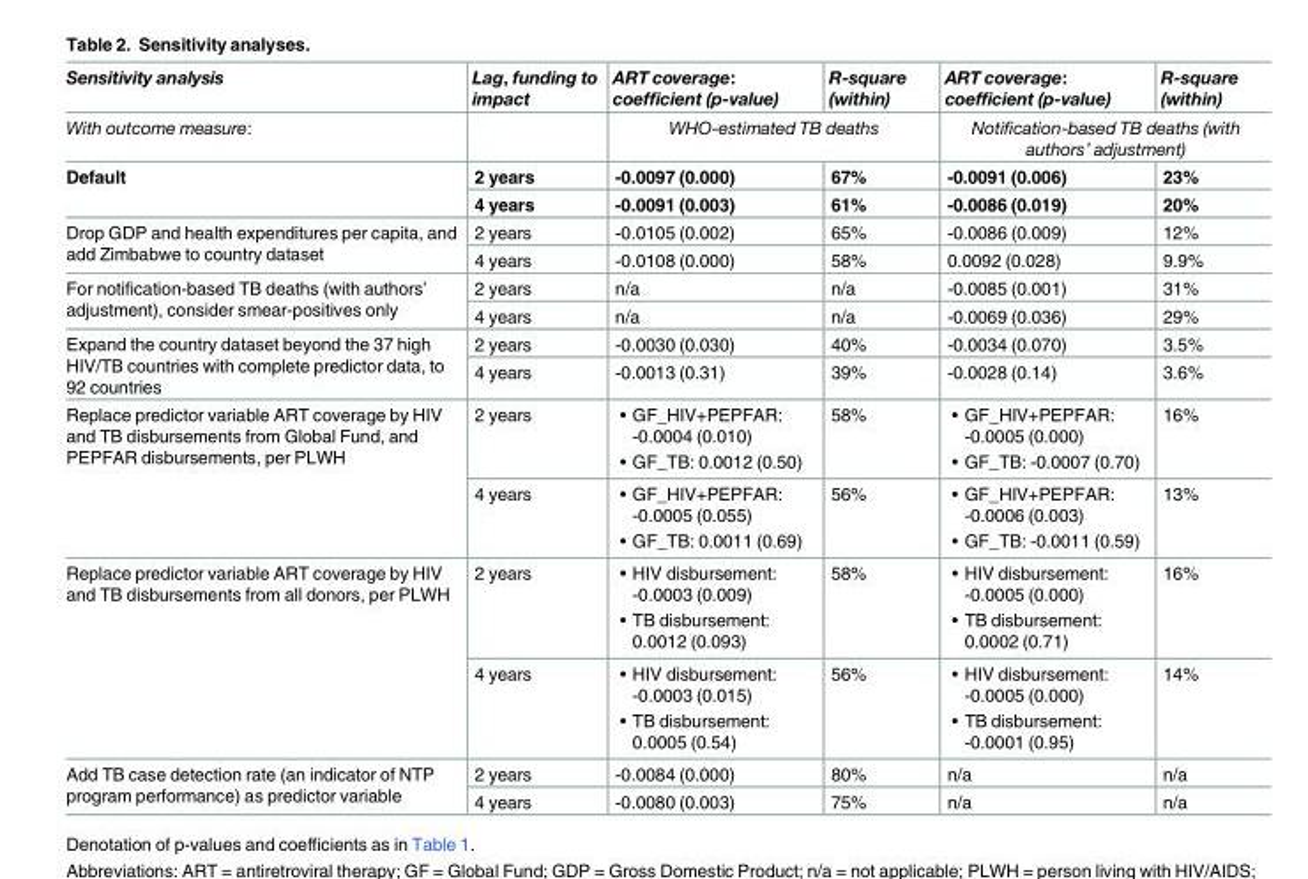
<table><thead><tr><td>Sensitivity analysis</td><td>Lag, funding to impact</td><td>ART coverage: coefficient (p-value)</td><td>R-square (within)</td><td>ART coverage: coefficient (p-value)</td><td>R-square (within)</td></tr></thead><tbody><tr><td>With outcome measure:</td><td></td><td colspan="2">WHO-estimated TB deaths</td><td colspan="2">Notification-based TB deaths (with authors’ adjustment)</td></tr><tr><td rowspan="2">Default</td><td>2 years</td><td>-0.0097 (0.000)</td><td>67%</td><td>-0.0091 (0.006)</td><td>23%</td></tr><tr><td>4 years</td><td>-0.0091 (0.003)</td><td>61%</td><td>-0.0086 (0.019)</td><td>20%</td></tr><tr><td rowspan="2">Drop GDP and health expenditures per capita, and add Zimbabwe to country dataset</td><td>2 years</td><td>-0.0105 (0.002)</td><td>65%</td><td>-0.0086 (0.009)</td><td>12%</td></tr><tr><td>4 years</td><td>-0.0108 (0.000)</td><td>58%</td><td>0.0092 (0.028)</td><td>9.9%</td></tr><tr><td rowspan="2">For notification-based TB deaths (with authors’ adjustment), consider smear-positives only</td><td>2 years</td><td>n/a</td><td>n/a</td><td>-0.0085 (0.001)</td><td>31%</td></tr><tr><td>4 years</td><td>n/a</td><td>n/a</td><td>-0.0069 (0.036)</td><td>29%</td></tr><tr><td rowspan="2">Expand the country dataset beyond the 37 high HIV/TB countries with complete predictor data, to 92 countries</td><td>2 years</td><td>-0.0030 (0.030)</td><td>40%</td><td>-0.0034 (0.070)</td><td>3.5%</td></tr><tr><td>4 years</td><td>-0.0013 (0.31)</td><td>39%</td><td>-0.0028 (0.14)</td><td>3.6%</td></tr><tr><td rowspan="2">Replace predictor variable ART coverage by HIV and TB disbursements from Global Fund, and PEPFAR disbursements, per PLWH</td><td>2 years</td><td>• GF_HIV+PEPFAR: -0.0004 (0.010) • GF_TB: 0.0012 (0.50)</td><td>58%</td><td>• GF_HIV+PEPFAR: -0.0005 (0.000) • GF_TB: -0.0007 (0.70)</td><td>16%</td></tr><tr><td>4 years</td><td>• GF_HIV+PEPFAR: -0.0005 (0.055) • GF_TB: 0.0011 (0.69)</td><td>56%</td><td>• GF_HIV+PEPFAR: -0.0006 (0.003) • GF_TB: -0.0011 (0.59)</td><td>13%</td></tr><tr><td rowspan="2">Replace predictor variable ART coverage by HIV and TB disbursements from all donors, per PLWH</td><td>2 years</td><td>• HIV disbursement: -0.0003 (0.009) • TB disbursement: 0.0012 (0.093)</td><td>58%</td><td>• HIV disbursement: -0.0005 (0.000) • TB disbursement: 0.0002 (0.71)</td><td>16%</td></tr><tr><td>4 years</td><td>• HIV disbursement: -0.0003 (0.015) • TB disbursement: 0.0005 (0.54)</td><td>56%</td><td>• HIV disbursement: -0.0005 (0.000) • TB disbursement: -0.0001 (0.95)</td><td>14%</td></tr><tr><td rowspan="2">Add TB case detection rate (an indicator of NTP program performance) as predictor variable</td><td>2 years</td><td>-0.0084 (0.000)</td><td>80%</td><td>n/a</td><td>n/a</td></tr><tr><td>4 years</td><td>-0.0080 (0.003)</td><td>75%</td><td>n/a</td><td>n/a</td></tr></tbody></table>